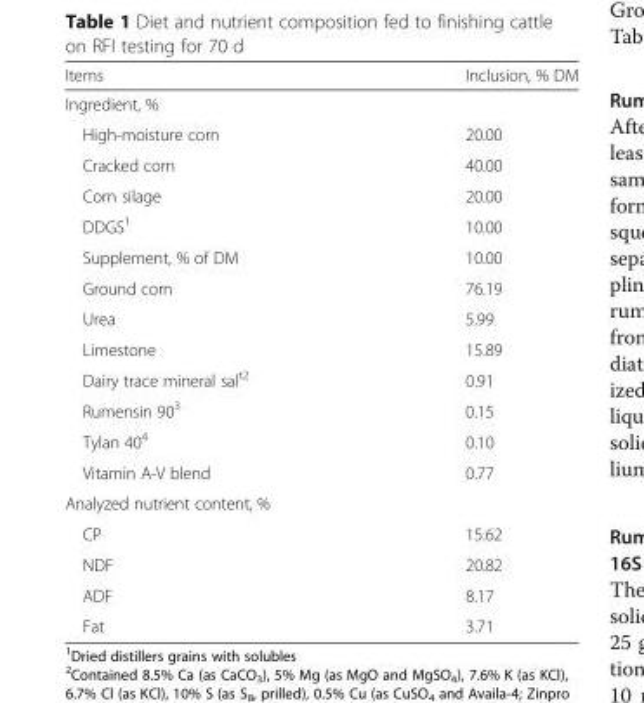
<table><thead><tr><td>Items</td><td>Inclusion, % DM</td></tr></thead><tbody><tr><td colspan="2">Ingredient, %</td></tr><tr><td>High-moisture corn</td><td>20.00</td></tr><tr><td>Cracked corn</td><td>40.00</td></tr><tr><td>Corn silage</td><td>20.00</td></tr><tr><td>DDGS<sup>1</sup></td><td>10.00</td></tr><tr><td>Supplement, % of DM</td><td>10.00</td></tr><tr><td>Ground corn</td><td>76.19</td></tr><tr><td>Urea</td><td>5.99</td></tr><tr><td>Limestone</td><td>15.89</td></tr><tr><td>Dairy trace mineral sal<sup>t2</sup></td><td>0.91</td></tr><tr><td>Rumensin 90<sup>3</sup></td><td>0.15</td></tr><tr><td>Tylan 40<sup>4</sup></td><td>0.10</td></tr><tr><td>Vitamin A-V blend</td><td>0.77</td></tr><tr><td colspan="2">Analyzed nutrient content, %</td></tr><tr><td>CP</td><td>15.62</td></tr><tr><td>NDF</td><td>20.82</td></tr><tr><td>ADF</td><td>8.17</td></tr><tr><td>Fat</td><td>3.71</td></tr></tbody></table>